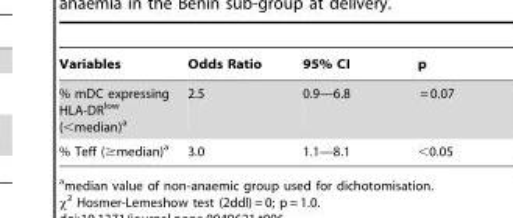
<table><thead><tr><td>Variables</td><td>Odds Ratio</td><td>95% CI</td><td>p</td></tr></thead><tbody><tr><td>% mDC expressing HLA-DR<sup>low</sup> (&lt;median)<sup>a</sup></td><td>2.5</td><td>0.9—6.8</td><td>= 0.07</td></tr><tr><td>% Teff (≥median)<sup>a</sup></td><td>3.0</td><td>1.1—8.1</td><td>&lt;0.05</td></tr></tbody></table>